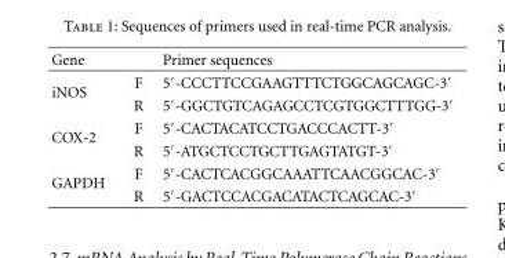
<table><thead><tr><td>Gene</td><td></td><td>Primer sequences</td></tr></thead><tbody><tr><td rowspan="2">iNOS</td><td>F</td><td>5′-CCCTTCCGAAGTTTCTGGCAGCAGC-3′</td></tr><tr><td>R</td><td>5′-GGCTGTCAGAGCCTCGTGGCTTTGG-3′</td></tr><tr><td rowspan="2">COX-2</td><td>F</td><td>5′-CACTACATCCTGACCCACTT-3′</td></tr><tr><td>R</td><td>5′-ATGCTCCTGCTTGAGTATGT-3′</td></tr><tr><td rowspan="2">GAPDH</td><td>F</td><td>5′-CACTCACGGCAAATTCAACGGCAC-3′</td></tr><tr><td>R</td><td>5′-GACTCCACGACATACTCAGCAC-3′</td></tr></tbody></table>